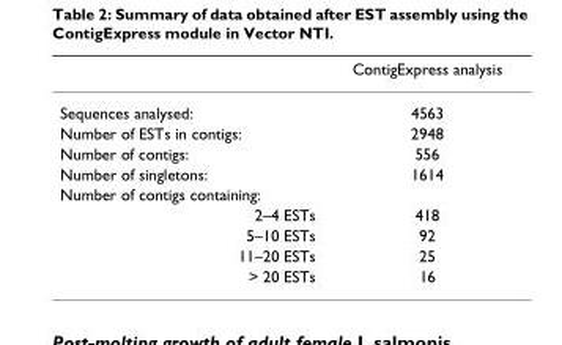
<table><thead><tr><td></td><td>ContigExpress analysis</td></tr></thead><tbody><tr><td>Sequences analysed:</td><td>4563</td></tr><tr><td>Number of ESTs in contigs:</td><td>2948</td></tr><tr><td>Number of contigs:</td><td>556</td></tr><tr><td>Number of singletons:</td><td>1614</td></tr><tr><td colspan="2">Number of contigs containing:</td></tr><tr><td>2–4 ESTs</td><td>418</td></tr><tr><td>5–10 ESTs</td><td>92</td></tr><tr><td>11–20 ESTs</td><td>25</td></tr><tr><td>&gt; 20 ESTs</td><td>16</td></tr></tbody></table>